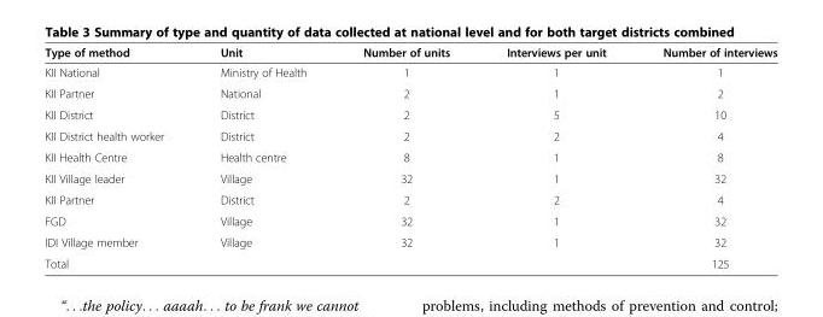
<table><thead><tr><td>Type of method</td><td>Unit</td><td>Number of units</td><td>Interviews per unit</td><td>Number of interviews</td></tr></thead><tbody><tr><td>KII National</td><td>Ministry of Health</td><td>1</td><td>1</td><td>1</td></tr><tr><td>KII Partner</td><td>National</td><td>2</td><td>1</td><td>2</td></tr><tr><td>KII District</td><td>District</td><td>2</td><td>5</td><td>10</td></tr><tr><td>KII District health worker</td><td>District</td><td>2</td><td>2</td><td>4</td></tr><tr><td>KII Health Centre</td><td>Health centre</td><td>8</td><td>1</td><td>8</td></tr><tr><td>KII Village leader</td><td>Village</td><td>32</td><td>1</td><td>32</td></tr><tr><td>KII Partner</td><td>District</td><td>2</td><td>2</td><td>4</td></tr><tr><td>FGD</td><td>Village</td><td>32</td><td>1</td><td>32</td></tr><tr><td>IDI Village member</td><td>Village</td><td>32</td><td>1</td><td>32</td></tr><tr><td>Total</td><td></td><td></td><td></td><td>125</td></tr></tbody></table>